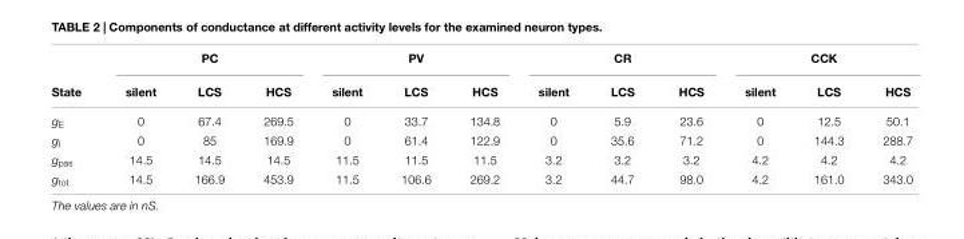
<table><thead><tr><td rowspan="2">State</td><td colspan="3">PC</td><td colspan="3">PV</td><td colspan="3">CR</td><td colspan="3">CCK</td></tr><tr><td>silent</td><td>LCS</td><td>HCS</td><td>silent</td><td>LCS</td><td>HCS</td><td>silent</td><td>LCS</td><td>HCS</td><td>silent</td><td>LCS</td><td>HCS</td></tr></thead><tbody><tr><td>g<sub>E</sub></td><td>0</td><td>67.4</td><td>269.5</td><td>0</td><td>33.7</td><td>134.8</td><td>0</td><td>5.9</td><td>23.6</td><td>0</td><td>12.5</td><td>50.1</td></tr><tr><td>g<sub>I</sub></td><td>0</td><td>85</td><td>169.9</td><td>0</td><td>61.4</td><td>122.9</td><td>0</td><td>35.6</td><td>71.2</td><td>0</td><td>144.3</td><td>288.7</td></tr><tr><td>g<sub>pas</sub></td><td>14.5</td><td>14.5</td><td>14.5</td><td>11.5</td><td>11.5</td><td>11.5</td><td>3.2</td><td>3.2</td><td>3.2</td><td>4.2</td><td>4.2</td><td>4.2</td></tr><tr><td>g<sub>tot</sub></td><td>14.5</td><td>166.9</td><td>453.9</td><td>11.5</td><td>106.6</td><td>269.2</td><td>3.2</td><td>44.7</td><td>98.0</td><td>4.2</td><td>161.0</td><td>343.0</td></tr></tbody></table>